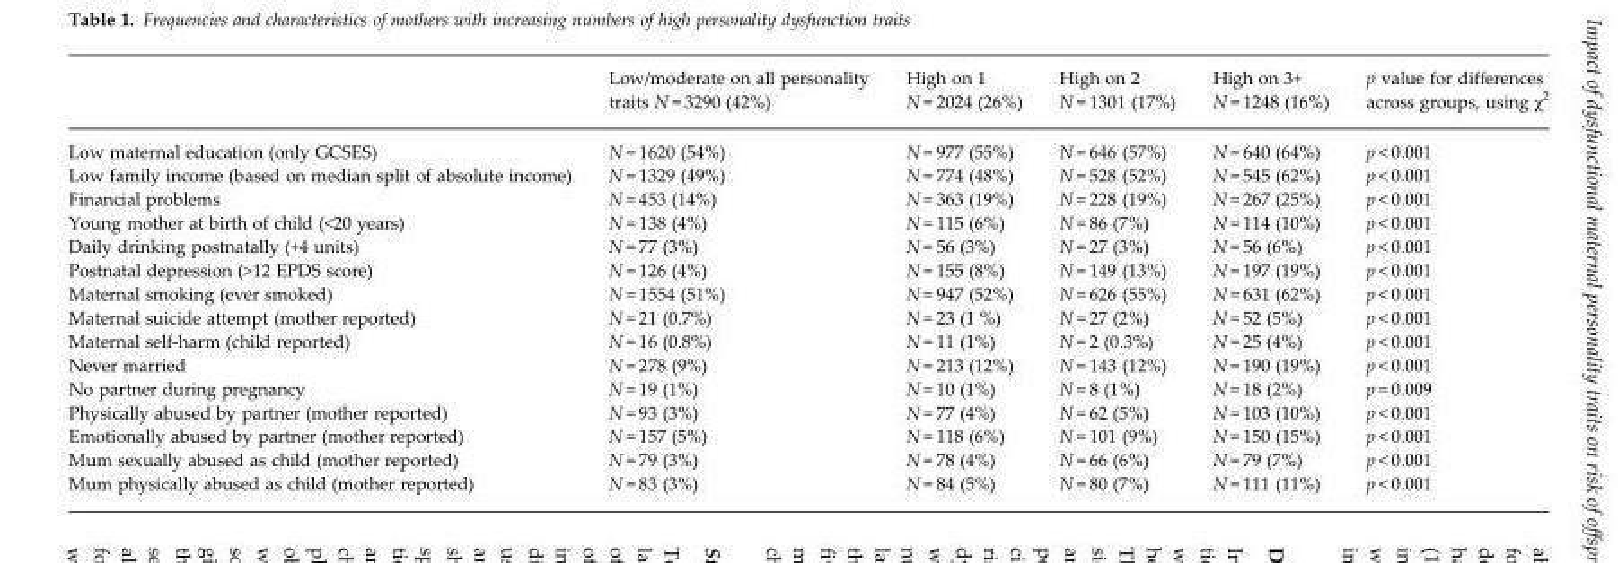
<table><thead><tr><td></td><td>Low/moderate on all personality traits N = 3290 (42%)</td><td>High on 1 N = 2024 (26%)</td><td>High on 2 N = 1301 (17%)</td><td>High on 3+ N = 1248 (16%)</td><td>p value for differences across groups, using χ<sup>2</sup></td></tr></thead><tbody><tr><td>Low maternal education (only GCSES)</td><td>N = 1620 (54%)</td><td>N = 977 (55%)</td><td>N = 646 (57%)</td><td>N = 640 (64%)</td><td>p &lt; 0.001</td></tr><tr><td>Low family income (based on median split of absolute income)</td><td>N = 1329 (49%)</td><td>N = 774 (48%)</td><td>N = 528 (52%)</td><td>N = 545 (62%)</td><td>p &lt; 0.001</td></tr><tr><td>Financial problems</td><td>N = 453 (14%)</td><td>N = 363 (19%)</td><td>N = 228 (19%)</td><td>N = 267 (25%)</td><td>p &lt; 0.001</td></tr><tr><td>Young mother at birth of child (&lt;20 years)</td><td>N = 138 (4%)</td><td>N = 115 (6%)</td><td>N = 86 (7%)</td><td>N = 114 (10%)</td><td>p &lt; 0.001</td></tr><tr><td>Daily drinking postnatally (+4 units)</td><td>N = 77 (3%)</td><td>N = 56 (3%)</td><td>N = 27 (3%)</td><td>N = 56 (6%)</td><td>p &lt; 0.001</td></tr><tr><td>Postnatal depression (&gt;12 EPDS score)</td><td>N = 126 (4%)</td><td>N = 155 (8%)</td><td>N = 149 (13%)</td><td>N = 197 (19%)</td><td>p &lt; 0.001</td></tr><tr><td>Maternal smoking (ever smoked)</td><td>N = 1554 (51%)</td><td>N = 947 (52%)</td><td>N = 626 (55%)</td><td>N = 631 (62%)</td><td>p &lt; 0.001</td></tr><tr><td>Maternal suicide attempt (mother reported)</td><td>N = 21 (0.7%)</td><td>N = 23 (1 %)</td><td>N = 27 (2%)</td><td>N = 52 (5%)</td><td>p &lt; 0.001</td></tr><tr><td>Maternal self-harm (child reported)</td><td>N = 16 (0.8%)</td><td>N = 11 (1%)</td><td>N = 2 (0.3%)</td><td>N = 25 (4%)</td><td>p &lt; 0.001</td></tr><tr><td>Never married</td><td>N = 278 (9%)</td><td>N = 213 (12%)</td><td>N = 143 (12%)</td><td>N = 190 (19%)</td><td>p &lt; 0.001</td></tr><tr><td>No partner during pregnancy</td><td>N = 19 (1%)</td><td>N = 10 (1%)</td><td>N = 8 (1%)</td><td>N = 18 (2%)</td><td>p = 0.009</td></tr><tr><td>Physically abused by partner (mother reported)</td><td>N = 93 (3%)</td><td>N = 77 (4%)</td><td>N = 62 (5%)</td><td>N = 103 (10%)</td><td>p &lt; 0.001</td></tr><tr><td>Emotionally abused by partner (mother reported)</td><td>N = 157 (5%)</td><td>N = 118 (6%)</td><td>N = 101 (9%)</td><td>N = 150 (15%)</td><td>p &lt; 0.001</td></tr><tr><td>Mum sexually abused as child (mother reported)</td><td>N = 79 (3%)</td><td>N = 78 (4%)</td><td>N = 66 (6%)</td><td>N = 79 (7%)</td><td>p &lt; 0.001</td></tr><tr><td>Mum physically abused as child (mother reported)</td><td>N = 83 (3%)</td><td>N = 84 (5%)</td><td>N = 80 (7%)</td><td>N = 111 (11%)</td><td>p &lt; 0.001</td></tr></tbody></table>